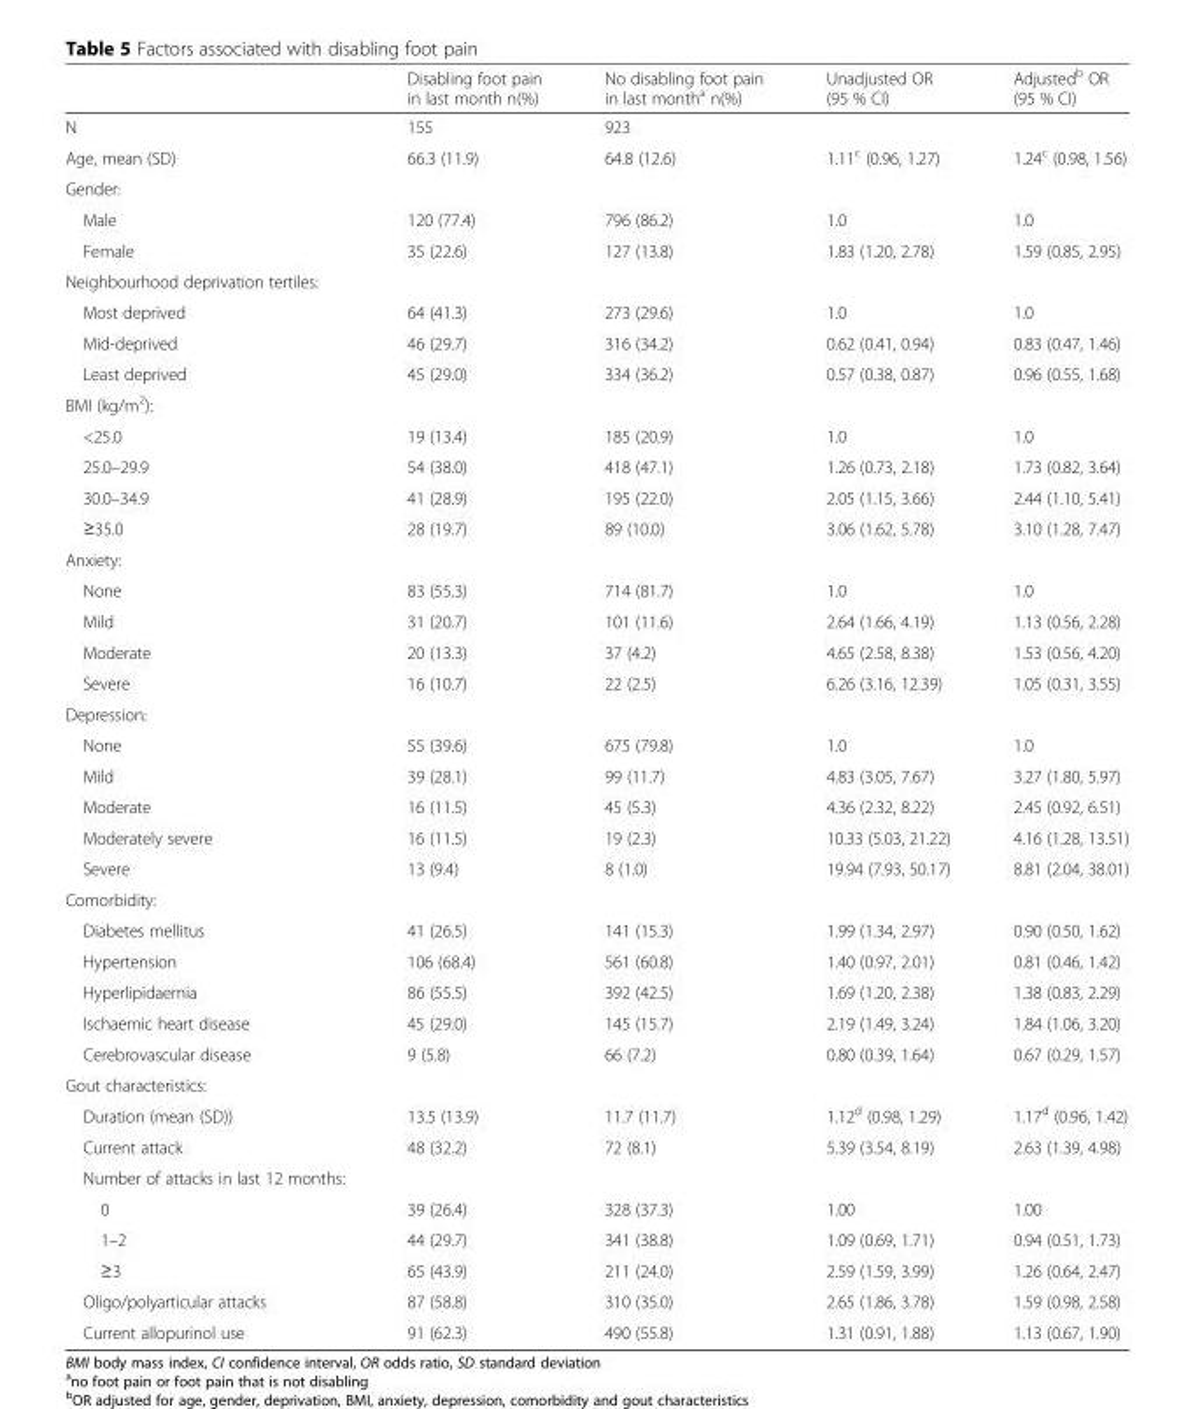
<table><thead><tr><td></td><td>Disabling foot pain in last month n(%)</td><td>No disabling foot pain in last month<sup>a</sup> n(%)</td><td>Unadjusted OR (95 % CI)</td><td>Adjusted<sup>b</sup> OR (95 % CI)</td></tr></thead><tbody><tr><td>N</td><td>155</td><td>923</td><td></td><td></td></tr><tr><td>Age, mean (SD)</td><td>66.3 (11.9)</td><td>64.8 (12.6)</td><td>1.11<sup>c</sup> (0.96, 1.27)</td><td>1.24<sup>c</sup> (0.98, 1.56)</td></tr><tr><td colspan="5">Gender:</td></tr><tr><td>Male</td><td>120 (77.4)</td><td>796 (86.2)</td><td>1.0</td><td>1.0</td></tr><tr><td>Female</td><td>35 (22.6)</td><td>127 (13.8)</td><td>1.83 (1.20, 2.78)</td><td>1.59 (0.85, 2.95)</td></tr><tr><td colspan="5">Neighbourhood deprivation tertiles:</td></tr><tr><td>Most deprived</td><td>64 (41.3)</td><td>273 (29.6)</td><td>1.0</td><td>1.0</td></tr><tr><td>Mid-deprived</td><td>46 (29.7)</td><td>316 (34.2)</td><td>0.62 (0.41, 0.94)</td><td>0.83 (0.47, 1.46)</td></tr><tr><td>Least deprived</td><td>45 (29.0)</td><td>334 (36.2)</td><td>0.57 (0.38, 0.87)</td><td>0.96 (0.55, 1.68)</td></tr><tr><td colspan="5">BMI (kg/m<sup>2</sup>):</td></tr><tr><td>&lt;25.0</td><td>19 (13.4)</td><td>185 (20.9)</td><td>1.0</td><td>1.0</td></tr><tr><td>25.0–29.9</td><td>54 (38.0)</td><td>418 (47.1)</td><td>1.26 (0.73, 2.18)</td><td>1.73 (0.82, 3.64)</td></tr><tr><td>30.0–34.9</td><td>41 (28.9)</td><td>195 (22.0)</td><td>2.05 (1.15, 3.66)</td><td>2.44 (1.10, 5.41)</td></tr><tr><td>≥35.0</td><td>28 (19.7)</td><td>89 (10.0)</td><td>3.06 (1.62, 5.78)</td><td>3.10 (1.28, 7.47)</td></tr><tr><td colspan="5">Anxiety:</td></tr><tr><td>None</td><td>83 (55.3)</td><td>714 (81.7)</td><td>1.0</td><td>1.0</td></tr><tr><td>Mild</td><td>31 (20.7)</td><td>101 (11.6)</td><td>2.64 (1.66, 4.19)</td><td>1.13 (0.56, 2.28)</td></tr><tr><td>Moderate</td><td>20 (13.3)</td><td>37 (4.2)</td><td>4.65 (2.58, 8.38)</td><td>1.53 (0.56, 4.20)</td></tr><tr><td>Severe</td><td>16 (10.7)</td><td>22 (2.5)</td><td>6.26 (3.16, 12.39)</td><td>1.05 (0.31, 3.55)</td></tr><tr><td colspan="5">Depression:</td></tr><tr><td>None</td><td>55 (39.6)</td><td>675 (79.8)</td><td>1.0</td><td>1.0</td></tr><tr><td>Mild</td><td>39 (28.1)</td><td>99 (11.7)</td><td>4.83 (3.05, 7.67)</td><td>3.27 (1.80, 5.97)</td></tr><tr><td>Moderate</td><td>16 (11.5)</td><td>45 (5.3)</td><td>4.36 (2.32, 8.22)</td><td>2.45 (0.92, 6.51)</td></tr><tr><td>Moderately severe</td><td>16 (11.5)</td><td>19 (2.3)</td><td>10.33 (5.03, 21.22)</td><td>4.16 (1.28, 13.51)</td></tr><tr><td>Severe</td><td>13 (9.4)</td><td>8 (1.0)</td><td>19.94 (7.93, 50.17)</td><td>8.81 (2.04, 38.01)</td></tr><tr><td colspan="5">Comorbidity:</td></tr><tr><td>Diabetes mellitus</td><td>41 (26.5)</td><td>141 (15.3)</td><td>1.99 (1.34, 2.97)</td><td>0.90 (0.50, 1.62)</td></tr><tr><td>Hypertension</td><td>106 (68.4)</td><td>561 (60.8)</td><td>1.40 (0.97, 2.01)</td><td>0.81 (0.46, 1.42)</td></tr><tr><td>Hyperlipidaemia</td><td>86 (55.5)</td><td>392 (42.5)</td><td>1.69 (1.20, 2.38)</td><td>1.38 (0.83, 2.29)</td></tr><tr><td>Ischaemic heart disease</td><td>45 (29.0)</td><td>145 (15.7)</td><td>2.19 (1.49, 3.24)</td><td>1.84 (1.06, 3.20)</td></tr><tr><td>Cerebrovascular disease</td><td>9 (5.8)</td><td>66 (7.2)</td><td>0.80 (0.39, 1.64)</td><td>0.67 (0.29, 1.57)</td></tr><tr><td colspan="5">Gout characteristics:</td></tr><tr><td>Duration (mean (SD))</td><td>13.5 (13.9)</td><td>11.7 (11.7)</td><td>1.12<sup>d</sup> (0.98, 1.29)</td><td>1.17<sup>d</sup> (0.96, 1.42)</td></tr><tr><td>Current attack</td><td>48 (32.2)</td><td>72 (8.1)</td><td>5.39 (3.54, 8.19)</td><td>2.63 (1.39, 4.98)</td></tr><tr><td colspan="5">Number of attacks in last 12 months:</td></tr><tr><td>0</td><td>39 (26.4)</td><td>328 (37.3)</td><td>1.00</td><td>1.00</td></tr><tr><td>1–2</td><td>44 (29.7)</td><td>341 (38.8)</td><td>1.09 (0.69, 1.71)</td><td>0.94 (0.51, 1.73)</td></tr><tr><td>≥3</td><td>65 (43.9)</td><td>211 (24.0)</td><td>2.59 (1.59, 3.99)</td><td>1.26 (0.64, 2.47)</td></tr><tr><td>Oligo/polyarticular attacks</td><td>87 (58.8)</td><td>310 (35.0)</td><td>2.65 (1.86, 3.78)</td><td>1.59 (0.98, 2.58)</td></tr><tr><td>Current allopurinol use</td><td>91 (62.3)</td><td>490 (55.8)</td><td>1.31 (0.91, 1.88)</td><td>1.13 (0.67, 1.90)</td></tr></tbody></table>